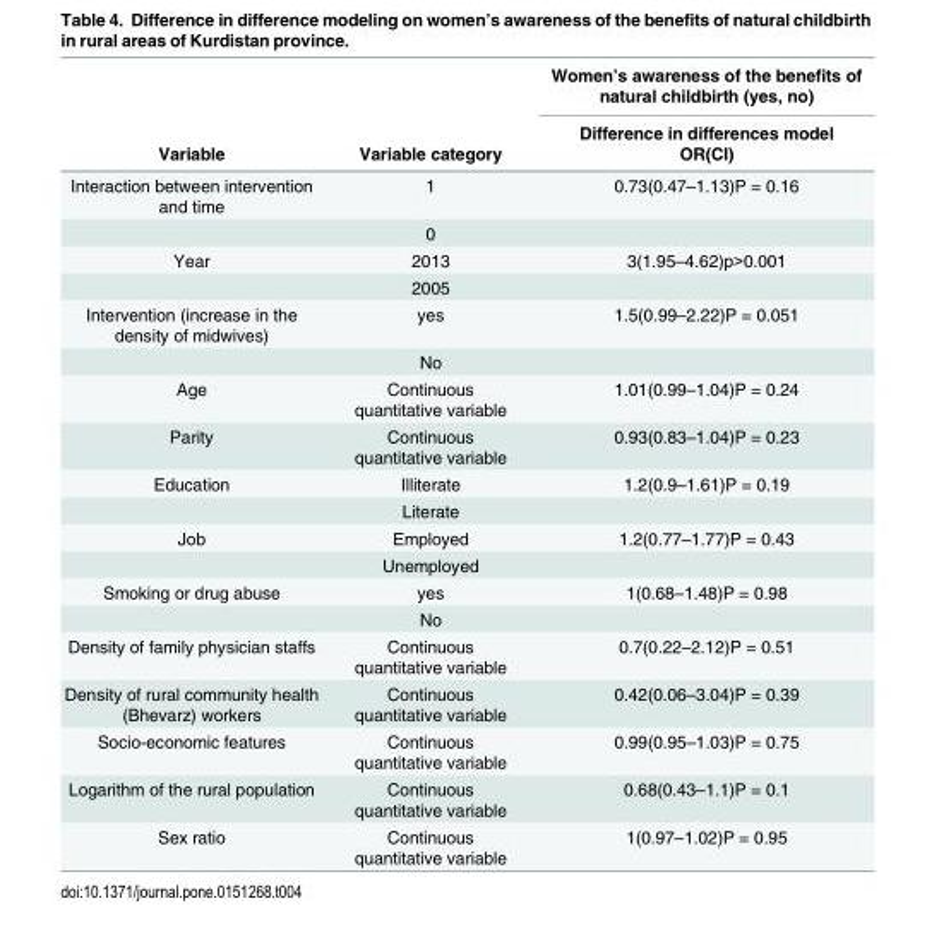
<table><thead><tr><td rowspan="3">Variable</td><td rowspan="3">Variable category</td><td rowspan="3">Women’s awareness of the benefits of natural childbirth (yes, no) Difference in differences model OR(CI)</td></tr><tr></tr><tr></tr></thead><tbody><tr><td rowspan="2">Interaction between intervention and time</td><td>1</td><td>0.73(0.47–1.13)P = 0.16</td></tr><tr><td>0</td><td></td></tr><tr><td rowspan="2">Year</td><td>2013</td><td>3(1.95–4.62)p&gt;0.001</td></tr><tr><td>2005</td><td></td></tr><tr><td rowspan="2">Intervention (increase in the density of midwives)</td><td>yes</td><td>1.5(0.99–2.22)P = 0.051</td></tr><tr><td>No</td><td></td></tr><tr><td>Age</td><td>Continuous quantitative variable</td><td>1.01(0.99–1.04)P = 0.24</td></tr><tr><td>Parity</td><td>Continuous quantitative variable</td><td>0.93(0.83–1.04)P = 0.23</td></tr><tr><td rowspan="2">Education</td><td>Illiterate</td><td>1.2(0.9–1.61)P = 0.19</td></tr><tr><td>Literate</td><td></td></tr><tr><td rowspan="2">Job</td><td>Employed</td><td>1.2(0.77–1.77)P = 0.43</td></tr><tr><td>Unemployed</td><td></td></tr><tr><td rowspan="2">Smoking or drug abuse</td><td>yes</td><td>1(0.68–1.48)P = 0.98</td></tr><tr><td>No</td><td></td></tr><tr><td>Density of family physician staffs</td><td>Continuous quantitative variable</td><td>0.7(0.22–2.12)P = 0.51</td></tr><tr><td>Density of rural community health (Bhevarz) workers</td><td>Continuous quantitative variable</td><td>0.42(0.06–3.04)P = 0.39</td></tr><tr><td>Socio-economic features</td><td>Continuous quantitative variable</td><td>0.99(0.95–1.03)P = 0.75</td></tr><tr><td>Logarithm of the rural population</td><td>Continuous quantitative variable</td><td>0.68(0.43–1.1)P = 0.1</td></tr><tr><td>Sex ratio</td><td>Continuous quantitative variable</td><td>1(0.97–1.02)P = 0.95</td></tr></tbody></table>